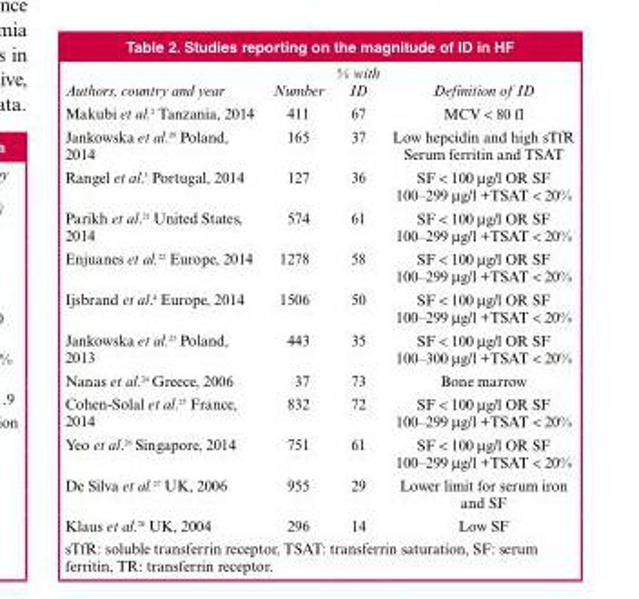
<table><thead><tr><td>Authors, country and year</td><td>Number</td><td>% with ID</td><td>Definition of ID</td></tr></thead><tbody><tr><td>Makubi et al.<sup>2</sup> Tanzania, 2014</td><td>411</td><td>67</td><td>MCV &lt; 80 fl</td></tr><tr><td>Jankowska et al.<sup>20</sup> Poland, 2014</td><td>165</td><td>37</td><td>Low hepcidin and high sTfR Serum ferritin and TSAT</td></tr><tr><td>Rangel et al.<sup>3</sup> Portugal, 2014</td><td>127</td><td>36</td><td>SF &lt; 100 µg/l OR SF 100–299 µg/l +TSAT &lt; 20%</td></tr><tr><td>Parikh et al.<sup>21</sup> United States, 2014</td><td>574</td><td>61</td><td>SF &lt; 100 µg/l OR SF 100–299 µg/l +TSAT &lt; 20%</td></tr><tr><td>Enjuanes et al.<sup>22</sup> Europe, 2014</td><td>1278</td><td>58</td><td>SF &lt; 100 µg/l OR SF 100–299 µg/l +TSAT &lt; 20%</td></tr><tr><td>Ijsbrand et al.<sup>4</sup> Europe, 2014</td><td>1506</td><td>50</td><td>SF &lt; 100 µg/l OR SF 100–299 µg/l +TSAT &lt; 20%</td></tr><tr><td>Jankowska et al.<sup>23</sup> Poland, 2013</td><td>443</td><td>35</td><td>SF &lt; 100 µg/l OR SF 100–300 µg/l +TSAT &lt; 20%</td></tr><tr><td>Nanas et al.<sup>24</sup> Greece, 2006</td><td>37</td><td>73</td><td>Bone marrow</td></tr><tr><td>Cohen-Solal et al.<sup>25</sup> France, 2014</td><td>832</td><td>72</td><td>SF &lt; 100 µg/l OR SF 100–299 µg/l +TSAT &lt; 20%</td></tr><tr><td>Yeo et al.<sup>26</sup> Singapore, 2014</td><td>751</td><td>61</td><td>SF &lt; 100 µg/l OR SF 100–299 µg/l +TSAT &lt; 20%</td></tr><tr><td>De Silva et al.<sup>27</sup> UK, 2006</td><td>955</td><td>29</td><td>Lower limit for serum iron and SF</td></tr><tr><td>Klaus et al.<sup>28</sup> UK, 2004</td><td>296</td><td>14</td><td>Low SF</td></tr></tbody></table>